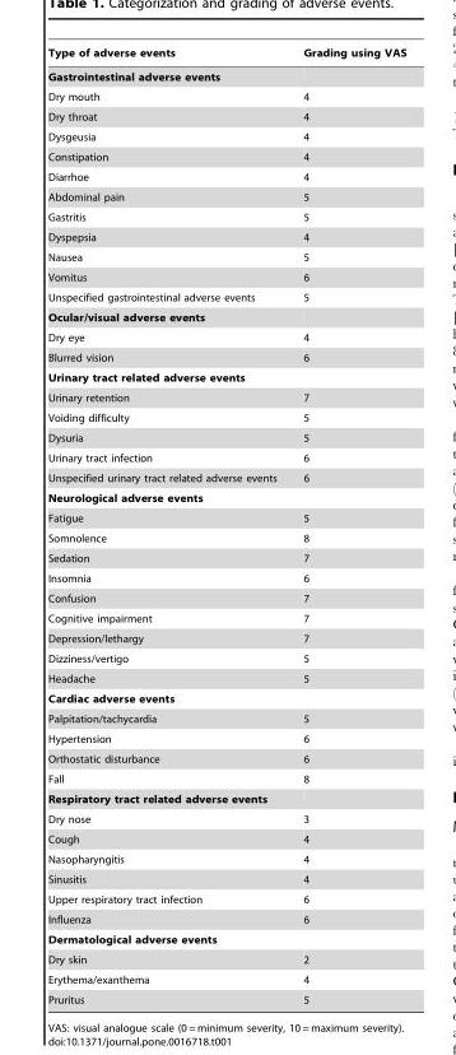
<table><thead><tr><td>Type of adverse events</td><td>Grading using VAS</td></tr></thead><tbody><tr><td colspan="2">Gastrointestinal adverse events</td></tr><tr><td>Dry mouth</td><td>4</td></tr><tr><td>Dry throat</td><td>4</td></tr><tr><td>Dysgeusia</td><td>4</td></tr><tr><td>Constipation</td><td>4</td></tr><tr><td>Diarrhoe</td><td>4</td></tr><tr><td>Abdominal pain</td><td>5</td></tr><tr><td>Gastritis</td><td>5</td></tr><tr><td>Dyspepsia</td><td>4</td></tr><tr><td>Nausea</td><td>5</td></tr><tr><td>Vomitus</td><td>6</td></tr><tr><td>Unspecified gastrointestinal adverse events</td><td>5</td></tr><tr><td colspan="2">Ocular/visual adverse events</td></tr><tr><td>Dry eye</td><td>4</td></tr><tr><td>Blurred vision</td><td>6</td></tr><tr><td colspan="2">Urinary tract related adverse events</td></tr><tr><td>Urinary retention</td><td>7</td></tr><tr><td>Voiding difficulty</td><td>5</td></tr><tr><td>Dysuria</td><td>5</td></tr><tr><td>Urinary tract infection</td><td>6</td></tr><tr><td>Unspecified urinary tract related adverse events</td><td>6</td></tr><tr><td colspan="2">Neurological adverse events</td></tr><tr><td>Fatigue</td><td>5</td></tr><tr><td>Somnolence</td><td>8</td></tr><tr><td>Sedation</td><td>7</td></tr><tr><td>Insomnia</td><td>6</td></tr><tr><td>Confusion</td><td>7</td></tr><tr><td>Cognitive impairment</td><td>7</td></tr><tr><td>Depression/lethargy</td><td>7</td></tr><tr><td>Dizziness/vertigo</td><td>5</td></tr><tr><td>Headache</td><td>5</td></tr><tr><td colspan="2">Cardiac adverse events</td></tr><tr><td>Palpitation/tachycardia</td><td>5</td></tr><tr><td>Hypertension</td><td>6</td></tr><tr><td>Orthostatic disturbance</td><td>6</td></tr><tr><td>Fall</td><td>8</td></tr><tr><td colspan="2">Respiratory tract related adverse events</td></tr><tr><td>Dry nose</td><td>3</td></tr><tr><td>Cough</td><td>4</td></tr><tr><td>Nasopharyngitis</td><td>4</td></tr><tr><td>Sinusitis</td><td>4</td></tr><tr><td>Upper respiratory tract infection</td><td>6</td></tr><tr><td>Influenza</td><td>6</td></tr><tr><td colspan="2">Dermatological adverse events</td></tr><tr><td>Dry skin</td><td>2</td></tr><tr><td>Erythema/exanthema</td><td>4</td></tr><tr><td>Pruritus</td><td>5</td></tr></tbody></table>